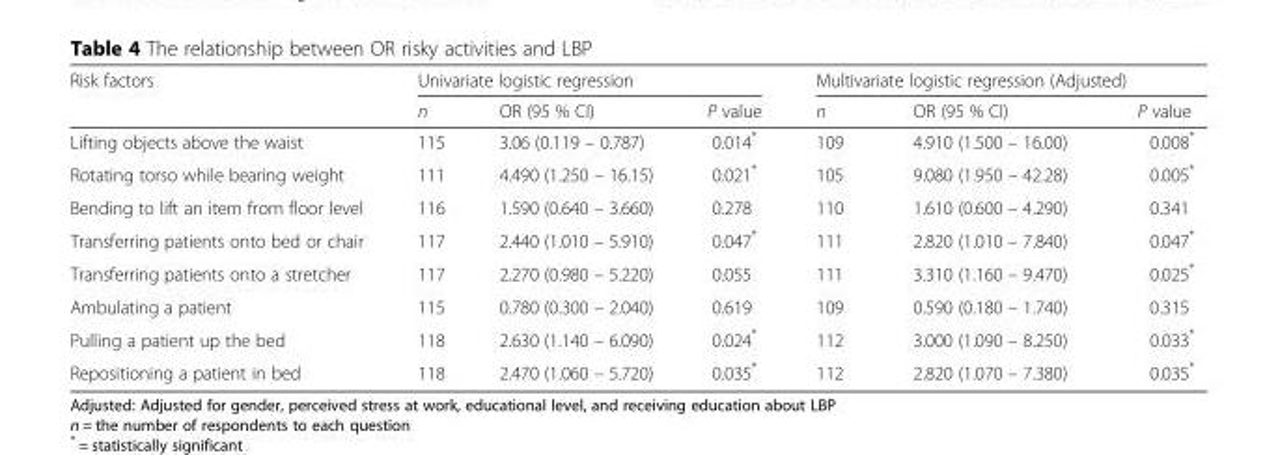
<table><thead><tr><td rowspan="2">Risk factors</td><td colspan="3">Univariate logistic regression</td><td colspan="3">Multivariate logistic regression (Adjusted)</td></tr><tr><td>n</td><td>OR (95 % CI)</td><td>P value</td><td>n</td><td>OR (95 % CI)</td><td>P value</td></tr></thead><tbody><tr><td>Lifting objects above the waist</td><td>115</td><td>3.06 (0.119 – 0.787)</td><td>0.014*</td><td>109</td><td>4.910 (1.500 – 16.00)</td><td>0.008*</td></tr><tr><td>Rotating torso while bearing weight</td><td>111</td><td>4.490 (1.250 – 16.15)</td><td>0.021*</td><td>105</td><td>9.080 (1.950 – 42.28)</td><td>0.005*</td></tr><tr><td>Bending to lift an item from floor level</td><td>116</td><td>1.590 (0.640 – 3.660)</td><td>0.278</td><td>110</td><td>1.610 (0.600 – 4.290)</td><td>0.341</td></tr><tr><td>Transferring patients onto bed or chair</td><td>117</td><td>2.440 (1.010 – 5.910)</td><td>0.047*</td><td>111</td><td>2.820 (1.010 – 7.840)</td><td>0.047*</td></tr><tr><td>Transferring patients onto a stretcher</td><td>117</td><td>2.270 (0.980 – 5.220)</td><td>0.055</td><td>111</td><td>3.310 (1.160 – 9.470)</td><td>0.025*</td></tr><tr><td>Ambulating a patient</td><td>115</td><td>0.780 (0.300 – 2.040)</td><td>0.619</td><td>109</td><td>0.590 (0.180 – 1.740)</td><td>0.315</td></tr><tr><td>Pulling a patient up the bed</td><td>118</td><td>2.630 (1.140 – 6.090)</td><td>0.024*</td><td>112</td><td>3.000 (1.090 – 8.250)</td><td>0.033*</td></tr><tr><td>Repositioning a patient in bed</td><td>118</td><td>2.470 (1.060 – 5.720)</td><td>0.035*</td><td>112</td><td>2.820 (1.070 – 7.380)</td><td>0.035*</td></tr></tbody></table>